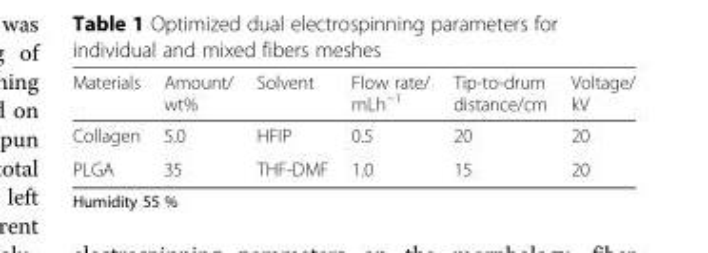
<table><thead><tr><td>Materials</td><td>Amount/ wt%</td><td>Solvent</td><td>Flow rate/ mLh<sup>−1</sup></td><td>Tip-to-drum distance/cm</td><td>Voltage/ kV</td></tr></thead><tbody><tr><td>Collagen</td><td>5.0</td><td>HFIP</td><td>0.5</td><td>20</td><td>20</td></tr><tr><td>PLGA</td><td>35</td><td>THF-DMF</td><td>1.0</td><td>15</td><td>20</td></tr></tbody></table>